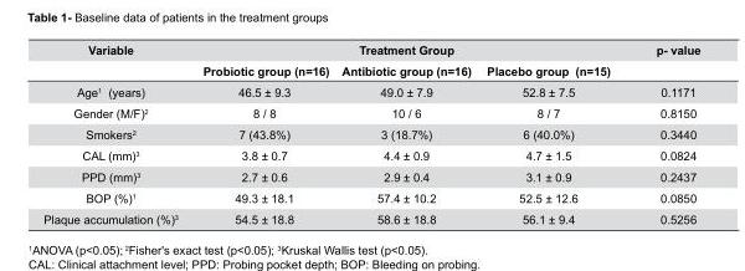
<table><thead><tr><td rowspan="2">Variable</td><td colspan="3">Treatment Group</td><td rowspan="2">p- value</td></tr><tr><td>Probiotic group (n=16)</td><td>Antibiotic group (n=16)</td><td>Placebo group (n=15)</td></tr></thead><tbody><tr><td>Age<sup>1</sup> (years)</td><td>46.5 ± 9.3</td><td>49.0 ± 7.9</td><td>52.8 ± 7.5</td><td>0.1171</td></tr><tr><td>Gender (M/F)<sup>2</sup></td><td>8 / 8</td><td>10 / 6</td><td>8 / 7</td><td>0.8150</td></tr><tr><td>Smokers<sup>2</sup></td><td>7 (43.8%)</td><td>3 (18.7%)</td><td>6 (40.0%)</td><td>0.3440</td></tr><tr><td>CAL (mm)<sup>3</sup></td><td>3.8 ± 0.7</td><td>4.4 ± 0.9</td><td>4.7 ± 1.5</td><td>0.0824</td></tr><tr><td>PPD (mm)<sup>3</sup></td><td>2.7 ± 0.6</td><td>2.9 ± 0.4</td><td>3.1 ± 0.9</td><td>0.2437</td></tr><tr><td>BOP (%)<sup>1</sup></td><td>49.3 ± 18.1</td><td>57.4 ± 10.2</td><td>52.5 ± 12.6</td><td>0.0850</td></tr><tr><td>Plaque accumulation (%)<sup>3</sup></td><td>54.5 ± 18.8</td><td>58.6 ± 18.8</td><td>56.1 ± 9.4</td><td>0.5256</td></tr></tbody></table>